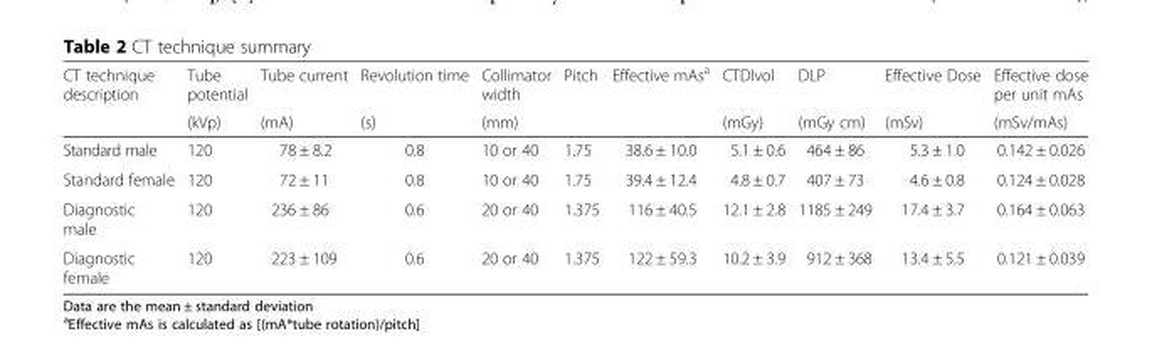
<table><thead><tr><td rowspan="2">CT technique description</td><td rowspan="2">Tube potential (kVp)</td><td rowspan="2">Tube current (mA)</td><td rowspan="2">Revolution time (s)</td><td rowspan="2">Collimator width (mm)</td><td rowspan="2">Pitch</td><td rowspan="2">Effective mAs<sup>a</sup></td><td rowspan="2">CTDIvol (mGy)</td><td rowspan="2">DLP (mGy cm)</td><td rowspan="2">Effective Dose (mSv)</td><td rowspan="2">Effective dose per unit mAs (mSv/mAs)</td></tr><tr></tr></thead><tbody><tr><td>Standard male</td><td>120</td><td>78 ± 8.2</td><td>0.8</td><td>10 or 40</td><td>1.75</td><td>38.6 ± 10.0</td><td>5.1 ± 0.6</td><td>464 ± 86</td><td>5.3 ± 1.0</td><td>0.142 ± 0.026</td></tr><tr><td>Standard female</td><td>120</td><td>72 ± 11</td><td>0.8</td><td>10 or 40</td><td>1.75</td><td>39.4 ± 12.4</td><td>4.8 ± 0.7</td><td>407 ± 73</td><td>4.6 ± 0.8</td><td>0.124 ± 0.028</td></tr><tr><td>Diagnostic male</td><td>120</td><td>236 ± 86</td><td>0.6</td><td>20 or 40</td><td>1.375</td><td>116 ± 40.5</td><td>12.1 ± 2.8</td><td>1185 ± 249</td><td>17.4 ± 3.7</td><td>0.164 ± 0.063</td></tr><tr><td>Diagnostic female</td><td>120</td><td>223 ± 109</td><td>0.6</td><td>20 or 40</td><td>1.375</td><td>122 ± 59.3</td><td>10.2 ± 3.9</td><td>912 ± 368</td><td>13.4 ± 5.5</td><td>0.121 ± 0.039</td></tr></tbody></table>